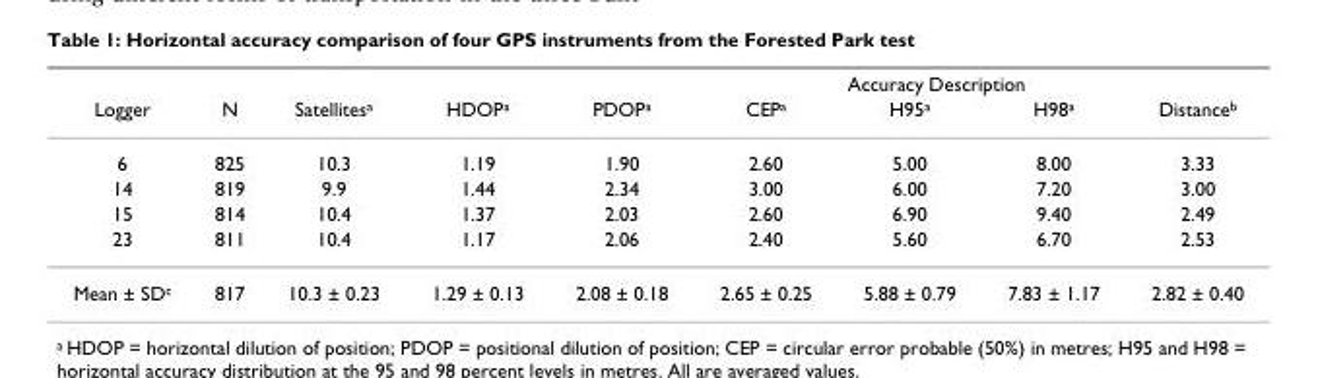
<table><thead><tr><td rowspan="2">Logger</td><td rowspan="2">N</td><td rowspan="2">Satellites<sup>a</sup></td><td rowspan="2">HDOP<sup>a</sup></td><td rowspan="2">PDOP<sup>a</sup></td><td rowspan="2">CEP<sup>a</sup></td><td colspan="3">Accuracy Description</td></tr><tr><td>H95<sup>a</sup></td><td>H98<sup>a</sup></td><td>Distance<sup>b</sup></td></tr></thead><tbody><tr><td>6</td><td>825</td><td>10.3</td><td>1.19</td><td>1.90</td><td>2.60</td><td>5.00</td><td>8.00</td><td>3.33</td></tr><tr><td>14</td><td>819</td><td>9.9</td><td>1.44</td><td>2.34</td><td>3.00</td><td>6.00</td><td>7.20</td><td>3.00</td></tr><tr><td>15</td><td>814</td><td>10.4</td><td>1.37</td><td>2.03</td><td>2.60</td><td>6.90</td><td>9.40</td><td>2.49</td></tr><tr><td>23</td><td>811</td><td>10.4</td><td>1.17</td><td>2.06</td><td>2.40</td><td>5.60</td><td>6.70</td><td>2.53</td></tr><tr><td>Mean ± SD<sup>c</sup></td><td>817</td><td>10.3 ± 0.23</td><td>1.29 ± 0.13</td><td>2.08 ± 0.18</td><td>2.65 ± 0.25</td><td>5.88 ± 0.79</td><td>7.83 ± 1.17</td><td>2.82 ± 0.40</td></tr></tbody></table>